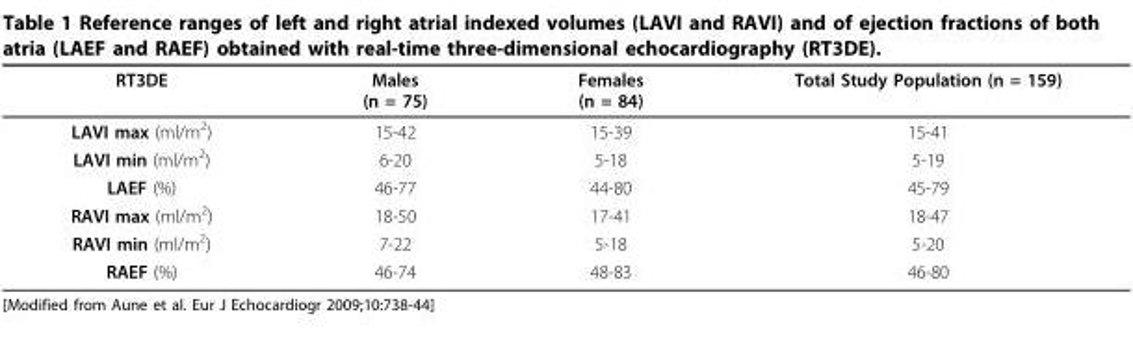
<table><thead><tr><td>RT3DE</td><td>Males (n = 75)</td><td>Females (n = 84)</td><td>Total Study Population (n = 159)</td></tr></thead><tbody><tr><td>LAVI max (ml/m<sup>2</sup>)</td><td>15-42</td><td>15-39</td><td>15-41</td></tr><tr><td>LAVI min (ml/m<sup>2</sup>)</td><td>6-20</td><td>5-18</td><td>5-19</td></tr><tr><td>LAEF (%)</td><td>46-77</td><td>44-80</td><td>45-79</td></tr><tr><td>RAVI max (ml/m<sup>2</sup>)</td><td>18-50</td><td>17-41</td><td>18-47</td></tr><tr><td>RAVI min (ml/m<sup>2</sup>)</td><td>7-22</td><td>5-18</td><td>5-20</td></tr><tr><td>RAEF (%)</td><td>46-74</td><td>48-83</td><td>46-80</td></tr></tbody></table>